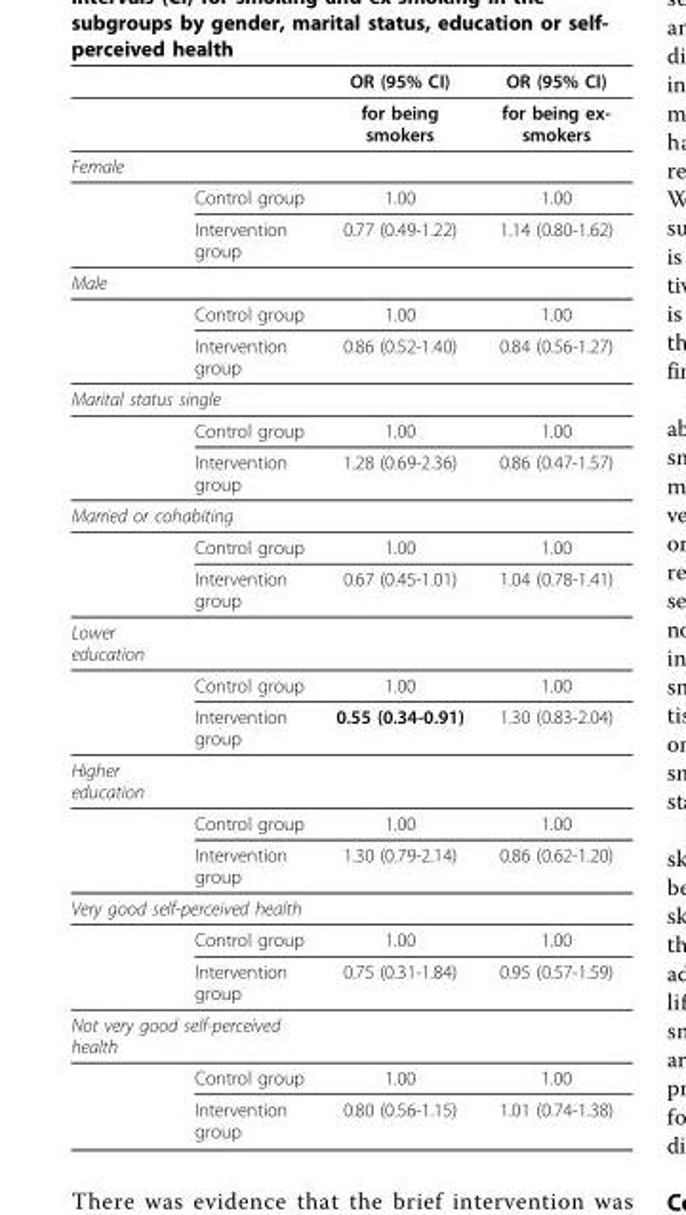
<table><thead><tr><td></td><td></td><td>OR (95% CI)</td><td>OR (95% CI)</td></tr></thead><tbody><tr><td></td><td></td><td>for being smokers</td><td>for being ex- smokers</td></tr><tr><td colspan="4">Female</td></tr><tr><td></td><td>Control group</td><td>1.00</td><td>1.00</td></tr><tr><td></td><td>Intervention group</td><td>0.77 (0.49-1.22)</td><td>1.14 (0.80-1.62)</td></tr><tr><td colspan="4">Male</td></tr><tr><td></td><td>Control group</td><td>1.00</td><td>1.00</td></tr><tr><td></td><td>Intervention group</td><td>0.86 (0.52-1.40)</td><td>0.84 (0.56-1.27)</td></tr><tr><td colspan="4">Marital status single</td></tr><tr><td></td><td>Control group</td><td>1.00</td><td>1.00</td></tr><tr><td></td><td>Intervention group</td><td>1.28 (0.69-2.36)</td><td>0.86 (0.47-1.57)</td></tr><tr><td colspan="4">Married or cohabiting</td></tr><tr><td></td><td>Control group</td><td>1.00</td><td>1.00</td></tr><tr><td></td><td>Intervention group</td><td>0.67 (0.45-1.01)</td><td>1.04 (0.78-1.41)</td></tr><tr><td colspan="4">Lower education</td></tr><tr><td></td><td>Control group</td><td>1.00</td><td>1.00</td></tr><tr><td></td><td>Intervention group</td><td>0.55 (0.34-0.91)</td><td>1.30 (0.83-2.04)</td></tr><tr><td colspan="4">Higher education</td></tr><tr><td></td><td>Control group</td><td>1.00</td><td>1.00</td></tr><tr><td></td><td>Intervention group</td><td>1.30 (0.79-2.14)</td><td>0.86 (0.62-1.20)</td></tr><tr><td colspan="4">Very good self-perceived health</td></tr><tr><td></td><td>Control group</td><td>1.00</td><td>1.00</td></tr><tr><td></td><td>Intervention group</td><td>0.75 (0.31-1.84)</td><td>0.95 (0.57-1.59)</td></tr><tr><td colspan="4">Not very good self-perceived health</td></tr><tr><td></td><td>Control group</td><td>1.00</td><td>1.00</td></tr><tr><td></td><td>Intervention group</td><td>0.80 (0.56-1.15)</td><td>1.01 (0.74-1.38)</td></tr></tbody></table>